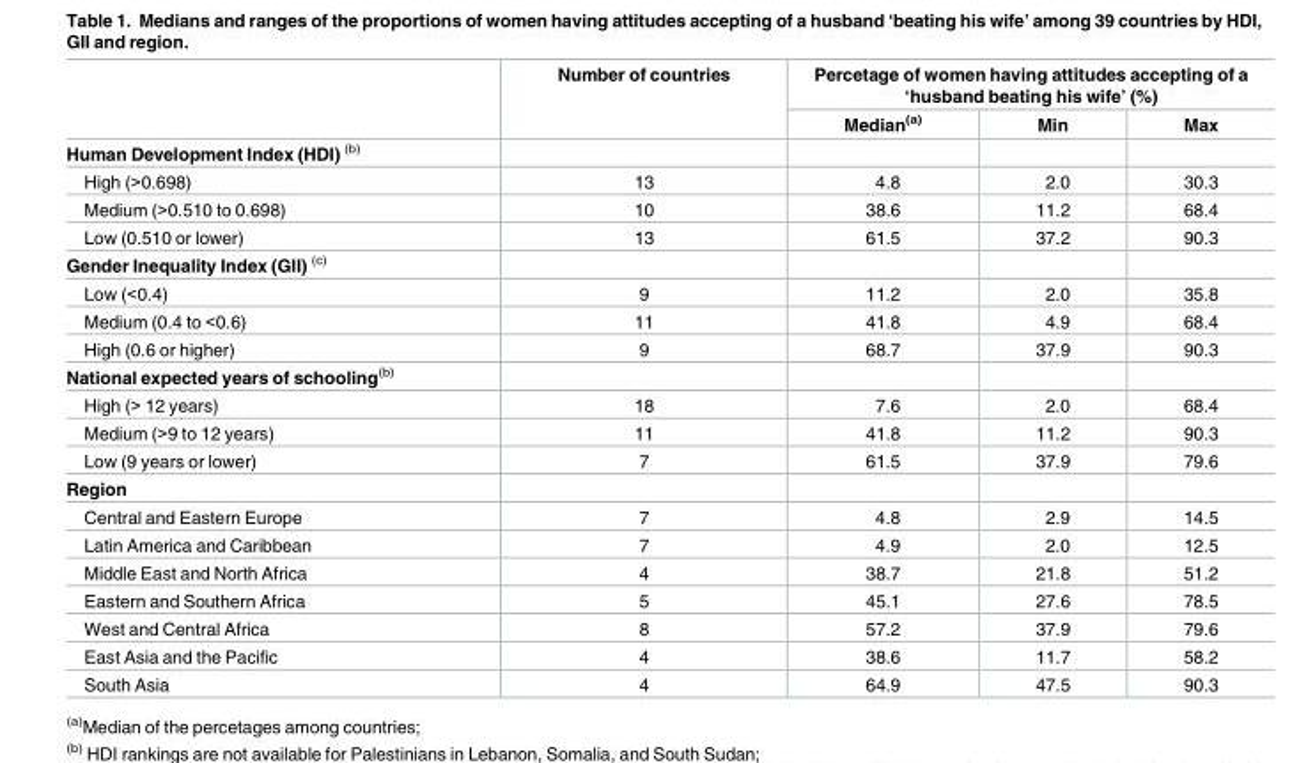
<table><thead><tr><td rowspan="2"></td><td rowspan="2">Number of countries</td><td colspan="3">Percetage of women having attitudes accepting of a ‘husband beating his wife’ (%)</td></tr><tr><td>Median<sup>(a)</sup></td><td>Min</td><td>Max</td></tr></thead><tbody><tr><td colspan="5">Human Development Index (HDI) <sup>(b)</sup></td></tr><tr><td>High (&gt;0.698)</td><td>13</td><td>4.8</td><td>2.0</td><td>30.3</td></tr><tr><td>Medium (&gt;0.510 to 0.698)</td><td>10</td><td>38.6</td><td>11.2</td><td>68.4</td></tr><tr><td>Low (0.510 or lower)</td><td>13</td><td>61.5</td><td>37.2</td><td>90.3</td></tr><tr><td colspan="5">Gender Inequality Index (GII) <sup>(c)</sup></td></tr><tr><td>Low (&lt;0.4)</td><td>9</td><td>11.2</td><td>2.0</td><td>35.8</td></tr><tr><td>Medium (0.4 to &lt;0.6)</td><td>11</td><td>41.8</td><td>4.9</td><td>68.4</td></tr><tr><td>High (0.6 or higher)</td><td>9</td><td>68.7</td><td>37.9</td><td>90.3</td></tr><tr><td colspan="5">National expected years of schooling<sup>(b)</sup></td></tr><tr><td>High (&gt; 12 years)</td><td>18</td><td>7.6</td><td>2.0</td><td>68.4</td></tr><tr><td>Medium (&gt;9 to 12 years)</td><td>11</td><td>41.8</td><td>11.2</td><td>90.3</td></tr><tr><td>Low (9 years or lower)</td><td>7</td><td>61.5</td><td>37.9</td><td>79.6</td></tr><tr><td colspan="5">Region</td></tr><tr><td>Central and Eastern Europe</td><td>7</td><td>4.8</td><td>2.9</td><td>14.5</td></tr><tr><td>Latin America and Caribbean</td><td>7</td><td>4.9</td><td>2.0</td><td>12.5</td></tr><tr><td>Middle East and North Africa</td><td>4</td><td>38.7</td><td>21.8</td><td>51.2</td></tr><tr><td>Eastern and Southern Africa</td><td>5</td><td>45.1</td><td>27.6</td><td>78.5</td></tr><tr><td>West and Central Africa</td><td>8</td><td>57.2</td><td>37.9</td><td>79.6</td></tr><tr><td>East Asia and the Pacific</td><td>4</td><td>38.6</td><td>11.7</td><td>58.2</td></tr><tr><td>South Asia</td><td>4</td><td>64.9</td><td>47.5</td><td>90.3</td></tr></tbody></table>